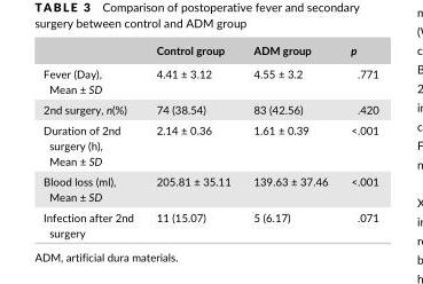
<table><thead><tr><td></td><td>Control group</td><td>ADM group</td><td>p</td></tr></thead><tbody><tr><td>Fever (Day), Mean ± SD</td><td>4.41 ± 3.12</td><td>4.55 ± 3.2</td><td>.771</td></tr><tr><td>2nd surgery, n(%)</td><td>74 (38.54)</td><td>83 (42.56)</td><td>.420</td></tr><tr><td>Duration of 2nd surgery (h), Mean ± SD</td><td>2.14 ± 0.36</td><td>1.61 ± 0.39</td><td>&lt;.001</td></tr><tr><td>Blood loss (ml), Mean ± SD</td><td>205.81 ± 35.11</td><td>139.63 ± 37.46</td><td>&lt;.001</td></tr><tr><td>Infection after 2nd surgery</td><td>11 (15.07)</td><td>5 (6.17)</td><td>.071</td></tr></tbody></table>